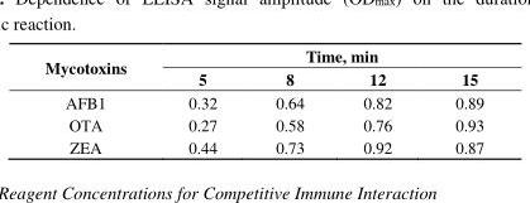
<table><thead><tr><td rowspan="2">Mycotoxins</td><td colspan="4">Time, min</td></tr><tr><td>5</td><td>8</td><td>12</td><td>15</td></tr></thead><tbody><tr><td>AFB1</td><td>0.32</td><td>0.64</td><td>0.82</td><td>0.89</td></tr><tr><td>ОТА</td><td>0.27</td><td>0.58</td><td>0.76</td><td>0.93</td></tr><tr><td>ZEA</td><td>0.44</td><td>0.73</td><td>0.92</td><td>0.87</td></tr></tbody></table>